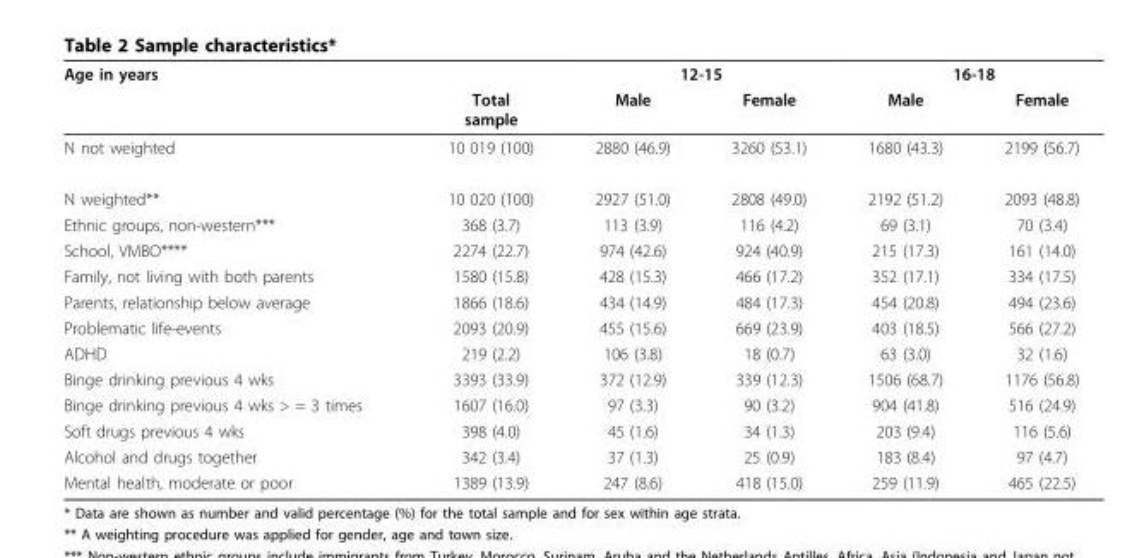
<table><thead><tr><td rowspan="2">Age in years</td><td rowspan="2">Total sample</td><td colspan="2">12-15</td><td colspan="2">16-18</td></tr><tr><td>Male</td><td>Female</td><td>Male</td><td>Female</td></tr></thead><tbody><tr><td>N not weighted</td><td>10 019 (100)</td><td>2880 (46.9)</td><td>3260 (53.1)</td><td>1680 (43.3)</td><td>2199 (56.7)</td></tr><tr><td>N weighted**</td><td>10 020 (100)</td><td>2927 (51.0)</td><td>2808 (49.0)</td><td>2192 (51.2)</td><td>2093 (48.8)</td></tr><tr><td>Ethnic groups, non-western***</td><td>368 (3.7)</td><td>113 (3.9)</td><td>116 (4.2)</td><td>69 (3.1)</td><td>70 (3.4)</td></tr><tr><td>School, VMBO****</td><td>2274 (22.7)</td><td>974 (42.6)</td><td>924 (40.9)</td><td>215 (17.3)</td><td>161 (14.0)</td></tr><tr><td>Family, not living with both parents</td><td>1580 (15.8)</td><td>428 (15.3)</td><td>466 (17.2)</td><td>352 (17.1)</td><td>334 (17.5)</td></tr><tr><td>Parents, relationship below average</td><td>1866 (18.6)</td><td>434 (14.9)</td><td>484 (17.3)</td><td>454 (20.8)</td><td>494 (23.6)</td></tr><tr><td>Problematic life-events</td><td>2093 (20.9)</td><td>455 (15.6)</td><td>669 (23.9)</td><td>403 (18.5)</td><td>566 (27.2)</td></tr><tr><td>ADHD</td><td>219 (2.2)</td><td>106 (3.8)</td><td>18 (0.7)</td><td>63 (3.0)</td><td>32 (1.6)</td></tr><tr><td>Binge drinking previous 4 wks</td><td>3393 (33.9)</td><td>372 (12.9)</td><td>339 (12.3)</td><td>1506 (68.7)</td><td>1176 (56.8)</td></tr><tr><td>Binge drinking previous 4 wks &gt; = 3 times</td><td>1607 (16.0)</td><td>97 (3.3)</td><td>90 (3.2)</td><td>904 (41.8)</td><td>516 (24.9)</td></tr><tr><td>Soft drugs previous 4 wks</td><td>398 (4.0)</td><td>45 (1.6)</td><td>34 (1.3)</td><td>203 (9.4)</td><td>116 (5.6)</td></tr><tr><td>Alcohol and drugs together</td><td>342 (3.4)</td><td>37 (1.3)</td><td>25 (0.9)</td><td>183 (8.4)</td><td>97 (4.7)</td></tr><tr><td>Mental health, moderate or poor</td><td>1389 (13.9)</td><td>247 (8.6)</td><td>418 (15.0)</td><td>259 (11.9)</td><td>465 (22.5)</td></tr></tbody></table>